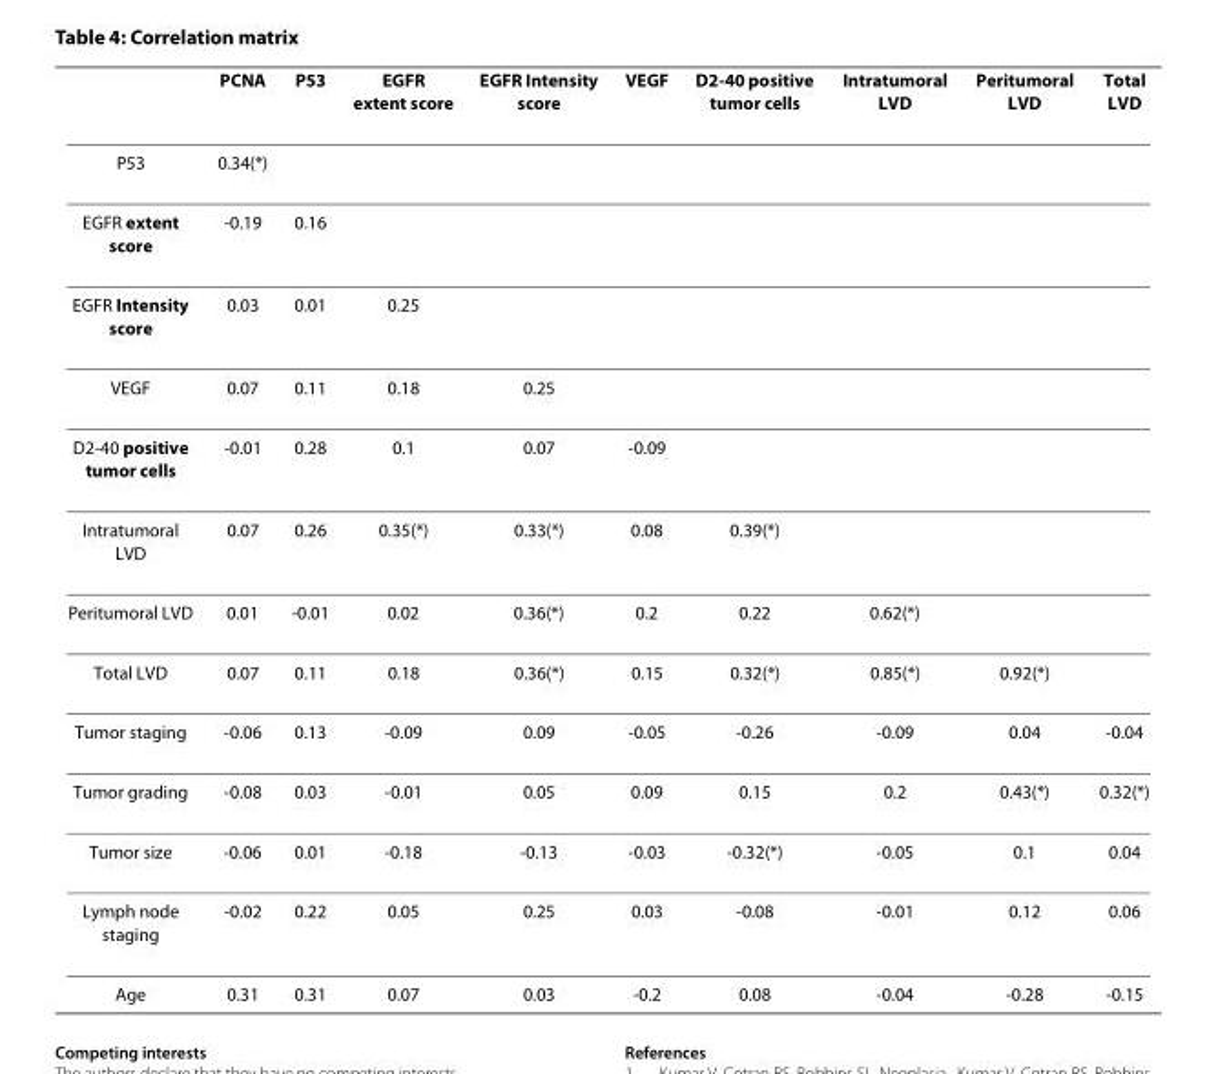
<table><thead><tr><td></td><td>PCNA</td><td>P53</td><td>EGFR extent score</td><td>EGFR Intensity score</td><td>VEGF</td><td>D2-40 positive tumor cells</td><td>Intratumoral LVD</td><td>Peritumoral LVD</td><td>Total LVD</td></tr></thead><tbody><tr><td>P53</td><td>0.34(*)</td><td></td><td></td><td></td><td></td><td></td><td></td><td></td><td></td></tr><tr><td>EGFR extent score</td><td>-0.19</td><td>0.16</td><td></td><td></td><td></td><td></td><td></td><td></td><td></td></tr><tr><td>EGFR Intensity score</td><td>0.03</td><td>0.01</td><td>0.25</td><td></td><td></td><td></td><td></td><td></td><td></td></tr><tr><td>VEGF</td><td>0.07</td><td>0.11</td><td>0.18</td><td>0.25</td><td></td><td></td><td></td><td></td><td></td></tr><tr><td>D2-40 positive tumor cells</td><td>-0.01</td><td>0.28</td><td>0.1</td><td>0.07</td><td>-0.09</td><td></td><td></td><td></td><td></td></tr><tr><td>Intratumoral LVD</td><td>0.07</td><td>0.26</td><td>0.35(*)</td><td>0.33(*)</td><td>0.08</td><td>0.39(*)</td><td></td><td></td><td></td></tr><tr><td>Peritumoral LVD</td><td>0.01</td><td>-0.01</td><td>0.02</td><td>0.36(*)</td><td>0.2</td><td>0.22</td><td>0.62(*)</td><td></td><td></td></tr><tr><td>Total LVD</td><td>0.07</td><td>0.11</td><td>0.18</td><td>0.36(*)</td><td>0.15</td><td>0.32(*)</td><td>0.85(*)</td><td>0.92(*)</td><td></td></tr><tr><td>Tumor staging</td><td>-0.06</td><td>0.13</td><td>-0.09</td><td>0.09</td><td>-0.05</td><td>-0.26</td><td>-0.09</td><td>0.04</td><td>-0.04</td></tr><tr><td>Tumor grading</td><td>-0.08</td><td>0.03</td><td>-0.01</td><td>0.05</td><td>0.09</td><td>0.15</td><td>0.2</td><td>0.43(*)</td><td>0.32(*)</td></tr><tr><td>Tumor size</td><td>-0.06</td><td>0.01</td><td>-0.18</td><td>-0.13</td><td>-0.03</td><td>-0.32(*)</td><td>-0.05</td><td>0.1</td><td>0.04</td></tr><tr><td>Lymph node staging</td><td>-0.02</td><td>0.22</td><td>0.05</td><td>0.25</td><td>0.03</td><td>-0.08</td><td>-0.01</td><td>0.12</td><td>0.06</td></tr><tr><td>Age</td><td>0.31</td><td>0.31</td><td>0.07</td><td>0.03</td><td>-0.2</td><td>0.08</td><td>-0.04</td><td>-0.28</td><td>-0.15</td></tr></tbody></table>